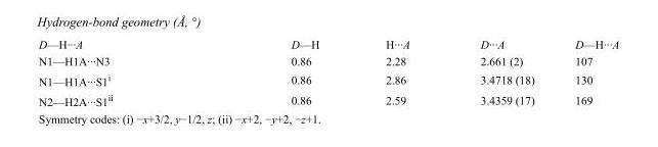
<table><tbody><tr><td>D—H···A</td><td>D—H</td><td>H···A</td><td>D···A</td><td>D—H···A</td></tr><tr><td>N1—H1A···N3</td><td>0.86</td><td>2.28</td><td>2.661 (2)</td><td>107</td></tr><tr><td>N1—H1A···S1<sup>i</sup></td><td>0.86</td><td>2.86</td><td>3.4718 (18)</td><td>130</td></tr><tr><td>N2—H2A···S1<sup>ii</sup></td><td>0.86</td><td>2.59</td><td>3.4359 (17)</td><td>169</td></tr></tbody></table>